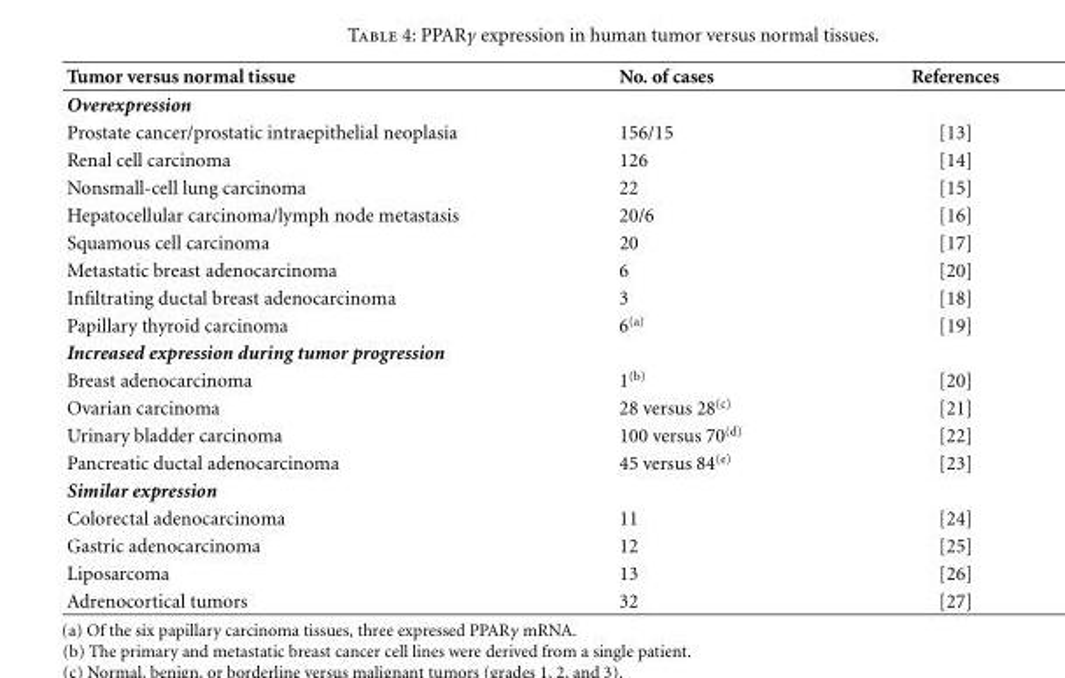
<table><thead><tr><td>Tumor versus normal tissue</td><td>No. of cases</td><td>References</td></tr></thead><tbody><tr><td colspan="3">Overexpression</td></tr><tr><td>Prostate cancer/prostatic intraepithelial neoplasia</td><td>156/15</td><td>[13]</td></tr><tr><td>Renal cell carcinoma</td><td>126</td><td>[14]</td></tr><tr><td>Nonsmall-cell lung carcinoma</td><td>22</td><td>[15]</td></tr><tr><td>Hepatocellular carcinoma/lymph node metastasis</td><td>20/6</td><td>[16]</td></tr><tr><td>Squamous cell carcinoma</td><td>20</td><td>[17]</td></tr><tr><td>Metastatic breast adenocarcinoma</td><td>6</td><td>[20]</td></tr><tr><td>Infiltrating ductal breast adenocarcinoma</td><td>3</td><td>[18]</td></tr><tr><td>Papillary thyroid carcinoma</td><td>6<sup>(a)</sup></td><td>[19]</td></tr><tr><td colspan="3">Increased expression during tumor progression</td></tr><tr><td>Breast adenocarcinoma</td><td>1<sup>(b)</sup></td><td>[20]</td></tr><tr><td>Ovarian carcinoma</td><td>28 versus 28<sup>(c)</sup></td><td>[21]</td></tr><tr><td>Urinary bladder carcinoma</td><td>100 versus 70<sup>(d)</sup></td><td>[22]</td></tr><tr><td>Pancreatic ductal adenocarcinoma</td><td>45 versus 84<sup>(e)</sup></td><td>[23]</td></tr><tr><td colspan="3">Similar expression</td></tr><tr><td>Colorectal adenocarcinoma</td><td>11</td><td>[24]</td></tr><tr><td>Gastric adenocarcinoma</td><td>12</td><td>[25]</td></tr><tr><td>Liposarcoma</td><td>13</td><td>[26]</td></tr><tr><td>Adrenocortical tumors</td><td>32</td><td>[27]</td></tr></tbody></table>